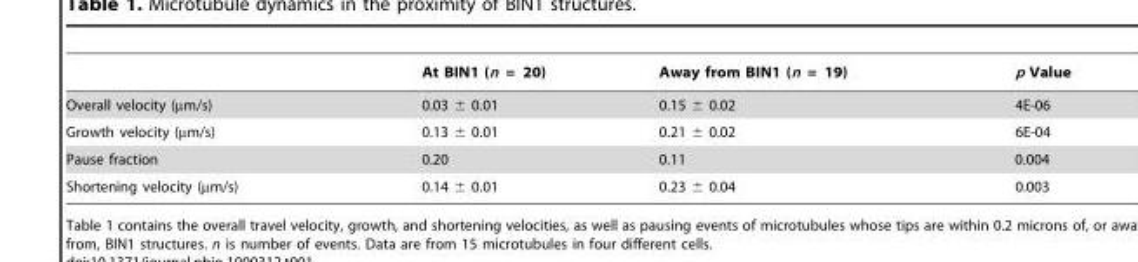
<table><thead><tr><td></td><td>At BIN1 (n = 20)</td><td>Away from BIN1 (n = 19)</td><td>p Value</td></tr></thead><tbody><tr><td>Overall velocity (µm/s)</td><td>0.03 ± 0.01</td><td>0.15 ± 0.02</td><td>4E-06</td></tr><tr><td>Growth velocity (µm/s)</td><td>0.13 ± 0.01</td><td>0.21 ± 0.02</td><td>6E-04</td></tr><tr><td>Pause fraction</td><td>0.20</td><td>0.11</td><td>0.004</td></tr><tr><td>Shortening velocity (µm/s)</td><td>0.14 ± 0.01</td><td>0.23 ± 0.04</td><td>0.003</td></tr></tbody></table>